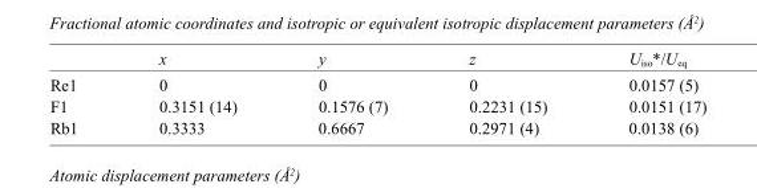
<table><thead><tr><td></td><td>x</td><td>y</td><td>z</td><td>U<sub>iso</sub>*/U<sub>eq</sub></td></tr></thead><tbody><tr><td>Re1</td><td>0</td><td>0</td><td>0</td><td>0.0157 (5)</td></tr><tr><td>F1</td><td>0.3151 (14)</td><td>0.1576 (7)</td><td>0.2231 (15)</td><td>0.0151 (17)</td></tr><tr><td>Rb1</td><td>0.3333</td><td>0.6667</td><td>0.2971 (4)</td><td>0.0138 (6)</td></tr></tbody></table>